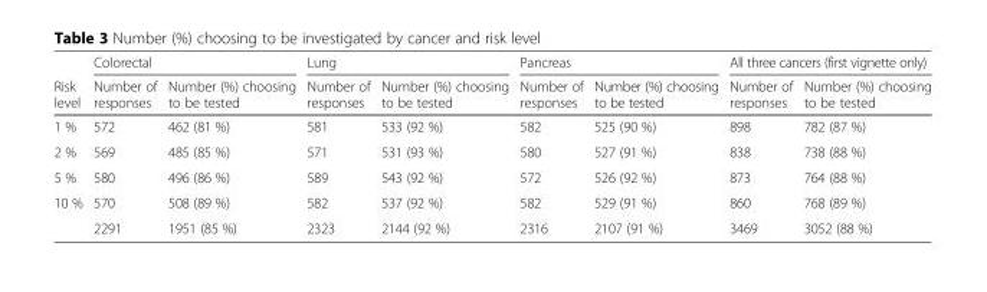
<table><thead><tr><td rowspan="2">Risk level</td><td colspan="2">Colorectal</td><td colspan="2">Lung</td><td colspan="2">Pancreas</td><td colspan="2">All three cancers (first vignette only)</td></tr><tr><td>Number of responses</td><td>Number (%) choosing to be tested</td><td>Number of responses</td><td>Number (%) choosing to be tested</td><td>Number of responses</td><td>Number (%) choosing to be tested</td><td>Number of responses</td><td>Number (%) choosing to be tested</td></tr></thead><tbody><tr><td>1 %</td><td>572</td><td>462 (81 %)</td><td>581</td><td>533 (92 %)</td><td>582</td><td>525 (90 %)</td><td>898</td><td>782 (87 %)</td></tr><tr><td>2 %</td><td>569</td><td>485 (85 %)</td><td>571</td><td>531 (93 %)</td><td>580</td><td>527 (91 %)</td><td>838</td><td>738 (88 %)</td></tr><tr><td>5 %</td><td>580</td><td>496 (86 %)</td><td>589</td><td>543 (92 %)</td><td>572</td><td>526 (92 %)</td><td>873</td><td>764 (88 %)</td></tr><tr><td rowspan="2">10 %</td><td>570</td><td>508 (89 %)</td><td>582</td><td>537 (92 %)</td><td>582</td><td>529 (91 %)</td><td>860</td><td>768 (89 %)</td></tr><tr><td>2291</td><td>1951 (85 %)</td><td>2323</td><td>2144 (92 %)</td><td>2316</td><td>2107 (91 %)</td><td>3469</td><td>3052 (88 %)</td></tr></tbody></table>